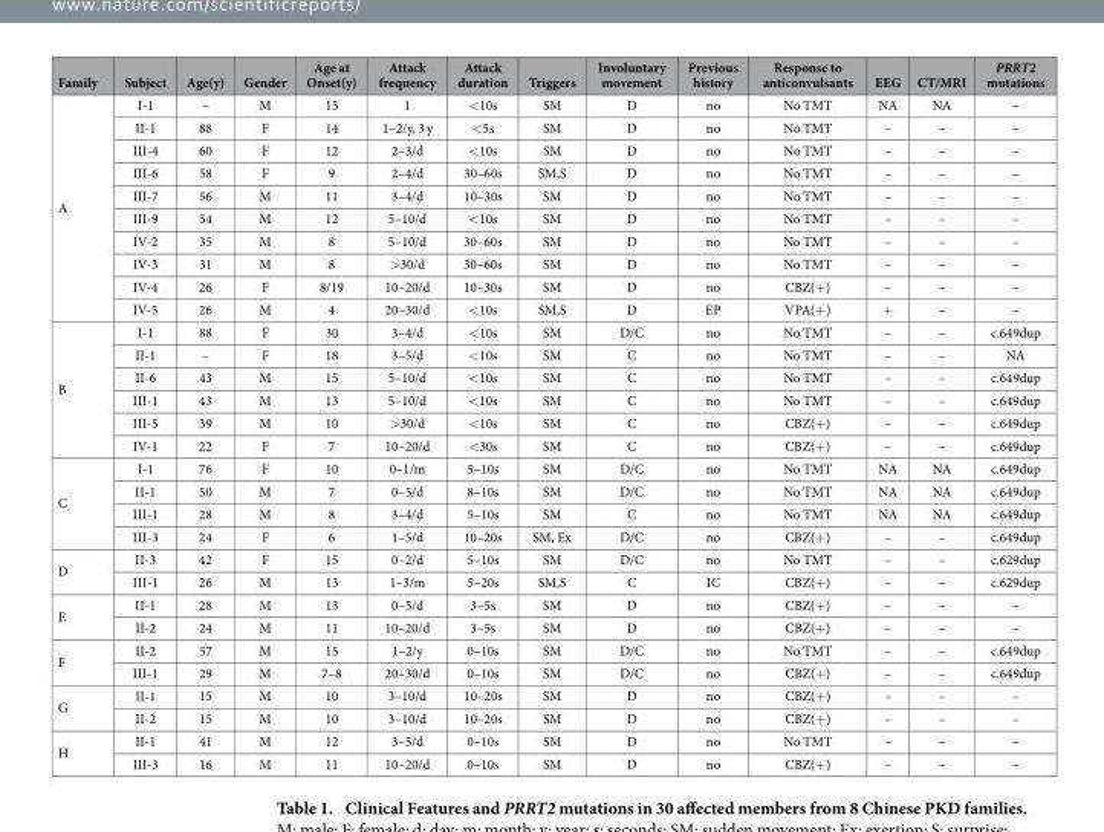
<table><thead><tr><td>Family</td><td>Subject</td><td>Age(y)</td><td>Gender</td><td>Age at Onset(y)</td><td>Attack frequency</td><td>Attack duration</td><td>Triggers</td><td>Involuntary movement</td><td>Previous history</td><td>Response to anticonvulsants</td><td>EEG</td><td>CT/MRI</td><td>PRRT2 mutations</td></tr></thead><tbody><tr><td rowspan="10">A</td><td>I-1</td><td>–</td><td>M</td><td>15</td><td>1</td><td>&lt; 10s</td><td>SM</td><td>D</td><td>no</td><td>No TMT</td><td>NA</td><td>NA</td><td>–</td></tr><tr><td>II-1</td><td>88</td><td>F</td><td>14</td><td>1–2/y, 3 y</td><td>&lt; 5s</td><td>SM</td><td>D</td><td>no</td><td>No TMT</td><td>–</td><td>–</td><td>–</td></tr><tr><td>III-4</td><td>60</td><td>F</td><td>12</td><td>2–3/d</td><td>&lt; 10s</td><td>SM</td><td>D</td><td>no</td><td>No TMT</td><td>–</td><td>–</td><td>–</td></tr><tr><td>III-6</td><td>58</td><td>F</td><td>9</td><td>2–4/d</td><td>30–60s</td><td>SM,S</td><td>D</td><td>no</td><td>No TMT</td><td>–</td><td>–</td><td>–</td></tr><tr><td>III-7</td><td>56</td><td>M</td><td>11</td><td>3–4/d</td><td>10–30s</td><td>SM</td><td>D</td><td>no</td><td>No TMT</td><td>–</td><td>–</td><td>–</td></tr><tr><td>III-9</td><td>54</td><td>M</td><td>12</td><td>5–10/d</td><td>&lt; 10s</td><td>SM</td><td>D</td><td>no</td><td>No TMT</td><td>–</td><td>–</td><td>–</td></tr><tr><td>IV-2</td><td>35</td><td>M</td><td>8</td><td>5–10/d</td><td>30–60s</td><td>SM</td><td>D</td><td>no</td><td>No TMT</td><td>–</td><td>–</td><td>–</td></tr><tr><td>IV-3</td><td>31</td><td>M</td><td>8</td><td>&gt; 30/d</td><td>30–60s</td><td>SM</td><td>D</td><td>no</td><td>No TMT</td><td>–</td><td>–</td><td>–</td></tr><tr><td>IV-4</td><td>26</td><td>F</td><td>8/19</td><td>10–20/d</td><td>10–30s</td><td>SM</td><td>D</td><td>no</td><td>CBZ(+ )</td><td>–</td><td>–</td><td>–</td></tr><tr><td>IV-5</td><td>26</td><td>M</td><td>4</td><td>20–30/d</td><td>&lt; 10s</td><td>SM,S</td><td>D</td><td>EP</td><td>VPA(+ )</td><td>+</td><td>–</td><td>–</td></tr><tr><td rowspan="6">B</td><td>I-1</td><td>88</td><td>F</td><td>30</td><td>3–4/d</td><td>&lt; 10s</td><td>SM</td><td>D/C</td><td>no</td><td>No TMT</td><td>–</td><td>–</td><td>c.649dup</td></tr><tr><td>II-1</td><td>–</td><td>F</td><td>18</td><td>3–5/d</td><td>&lt; 10s</td><td>SM</td><td>C</td><td>no</td><td>No TMT</td><td>–</td><td>–</td><td>NA</td></tr><tr><td>II-6</td><td>43</td><td>M</td><td>15</td><td>5–10/d</td><td>&lt; 10s</td><td>SM</td><td>C</td><td>no</td><td>No TMT</td><td>–</td><td>–</td><td>c.649dup</td></tr><tr><td>III-1</td><td>43</td><td>M</td><td>13</td><td>5–10/d</td><td>&lt; 10s</td><td>SM</td><td>C</td><td>no</td><td>No TMT</td><td>–</td><td>–</td><td>c.649dup</td></tr><tr><td>III-5</td><td>39</td><td>M</td><td>10</td><td>&gt; 30/d</td><td>&lt; 10s</td><td>SM</td><td>C</td><td>no</td><td>CBZ(+ )</td><td>–</td><td>–</td><td>c.649dup</td></tr><tr><td>IV-1</td><td>22</td><td>F</td><td>7</td><td>10–20/d</td><td>&lt; 30s</td><td>SM</td><td>C</td><td>no</td><td>CBZ(+ )</td><td>–</td><td>–</td><td>c.649dup</td></tr><tr><td rowspan="4">C</td><td>I-1</td><td>76</td><td>F</td><td>10</td><td>0–1/m</td><td>5–10s</td><td>SM</td><td>D/C</td><td>no</td><td>No TMT</td><td>NA</td><td>NA</td><td>c.649dup</td></tr><tr><td>II-1</td><td>50</td><td>M</td><td>7</td><td>0–5/d</td><td>8–10s</td><td>SM</td><td>D/C</td><td>no</td><td>No TMT</td><td>NA</td><td>NA</td><td>c.649dup</td></tr><tr><td>III-1</td><td>28</td><td>M</td><td>8</td><td>3–4/d</td><td>5–10s</td><td>SM</td><td>C</td><td>no</td><td>No TMT</td><td>NA</td><td>NA</td><td>c.649dup</td></tr><tr><td>III-3</td><td>24</td><td>F</td><td>6</td><td>1–5/d</td><td>10–20s</td><td>SM, Ex</td><td>D/C</td><td>no</td><td>CBZ(+ )</td><td>–</td><td>–</td><td>c.649dup</td></tr><tr><td rowspan="2">D</td><td>II-3</td><td>42</td><td>F</td><td>15</td><td>0–2/d</td><td>5–10s</td><td>SM</td><td>D/C</td><td>no</td><td>No TMT</td><td>–</td><td>–</td><td>c.629dup</td></tr><tr><td>III-1</td><td>26</td><td>M</td><td>13</td><td>1–3/m</td><td>5–20s</td><td>SM,S</td><td>C</td><td>IC</td><td>CBZ(+ )</td><td>–</td><td>–</td><td>c.629dup</td></tr><tr><td rowspan="2">E</td><td>II-1</td><td>28</td><td>M</td><td>13</td><td>0–5/d</td><td>3–5s</td><td>SM</td><td>D</td><td>no</td><td>CBZ(+ )</td><td>–</td><td>–</td><td>–</td></tr><tr><td>II-2</td><td>24</td><td>M</td><td>11</td><td>10–20/d</td><td>3–5s</td><td>SM</td><td>D</td><td>no</td><td>CBZ(+ )</td><td>–</td><td>–</td><td>–</td></tr><tr><td rowspan="2">F</td><td>II-2</td><td>57</td><td>M</td><td>15</td><td>1–2/y</td><td>0–10s</td><td>SM</td><td>D/C</td><td>no</td><td>No TMT</td><td>–</td><td>–</td><td>c.649dup</td></tr><tr><td>III-1</td><td>29</td><td>M</td><td>7–8</td><td>20–30/d</td><td>0–10s</td><td>SM</td><td>D/C</td><td>no</td><td>CBZ(+ )</td><td>–</td><td>–</td><td>c.649dup</td></tr><tr><td rowspan="2">G</td><td>II-1</td><td>15</td><td>M</td><td>10</td><td>3–10/d</td><td>10–20s</td><td>SM</td><td>D</td><td>no</td><td>CBZ(+ )</td><td>–</td><td>–</td><td>–</td></tr><tr><td>II-2</td><td>15</td><td>M</td><td>10</td><td>3–10/d</td><td>10–20s</td><td>SM</td><td>D</td><td>no</td><td>CBZ(+ )</td><td>–</td><td>–</td><td>–</td></tr><tr><td rowspan="2">H</td><td>II-1</td><td>41</td><td>M</td><td>12</td><td>3–5/d</td><td>0–10s</td><td>SM</td><td>D</td><td>no</td><td>No TMT</td><td>–</td><td>–</td><td>–</td></tr><tr><td>III-3</td><td>16</td><td>M</td><td>11</td><td>10–20/d</td><td>0–10s</td><td>SM</td><td>D</td><td>no</td><td>CBZ(+ )</td><td>–</td><td>–</td><td>–</td></tr></tbody></table>